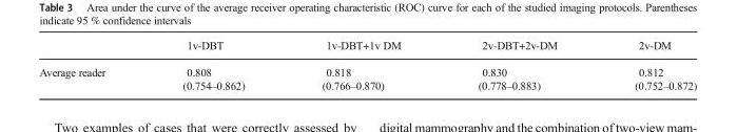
<table><thead><tr><td></td><td>1v-DBT</td><td>1v-DBT+1v DM</td><td>2v-DBT+2v-DM</td><td>2v-DM</td></tr></thead><tbody><tr><td>Average reader</td><td>0.808 (0.754–0.862)</td><td>0.818 (0.766–0.870)</td><td>0.830 (0.778–0.883)</td><td>0.812 (0.752–0.872)</td></tr></tbody></table>